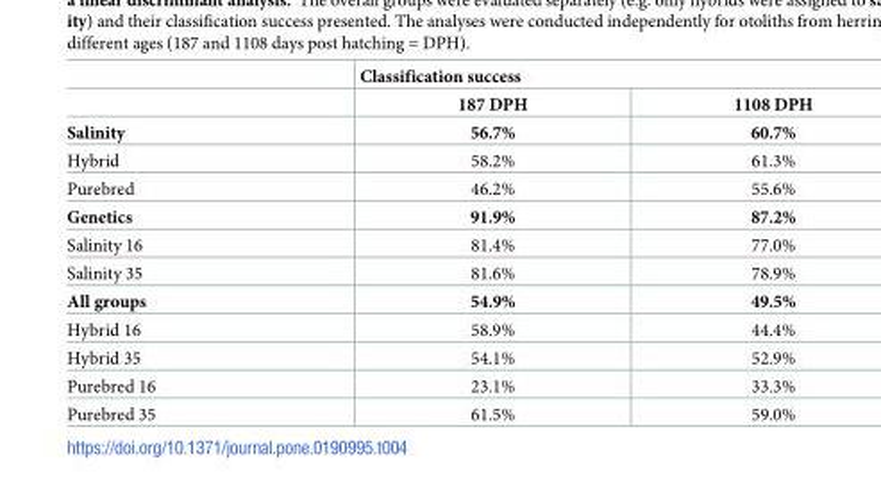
<table><thead><tr><td rowspan="2"></td><td colspan="2">Classification success</td></tr><tr><td>187 DPH</td><td>1108 DPH</td></tr></thead><tbody><tr><td>Salinity</td><td>56.7%</td><td>60.7%</td></tr><tr><td>Hybrid</td><td>58.2%</td><td>61.3%</td></tr><tr><td>Purebred</td><td>46.2%</td><td>55.6%</td></tr><tr><td>Genetics</td><td>91.9%</td><td>87.2%</td></tr><tr><td>Salinity 16</td><td>81.4%</td><td>77.0%</td></tr><tr><td>Salinity 35</td><td>81.6%</td><td>78.9%</td></tr><tr><td>All groups</td><td>54.9%</td><td>49.5%</td></tr><tr><td>Hybrid 16</td><td>58.9%</td><td>44.4%</td></tr><tr><td>Hybrid 35</td><td>54.1%</td><td>52.9%</td></tr><tr><td>Purebred 16</td><td>23.1%</td><td>33.3%</td></tr><tr><td>Purebred 35</td><td>61.5%</td><td>59.0%</td></tr></tbody></table>